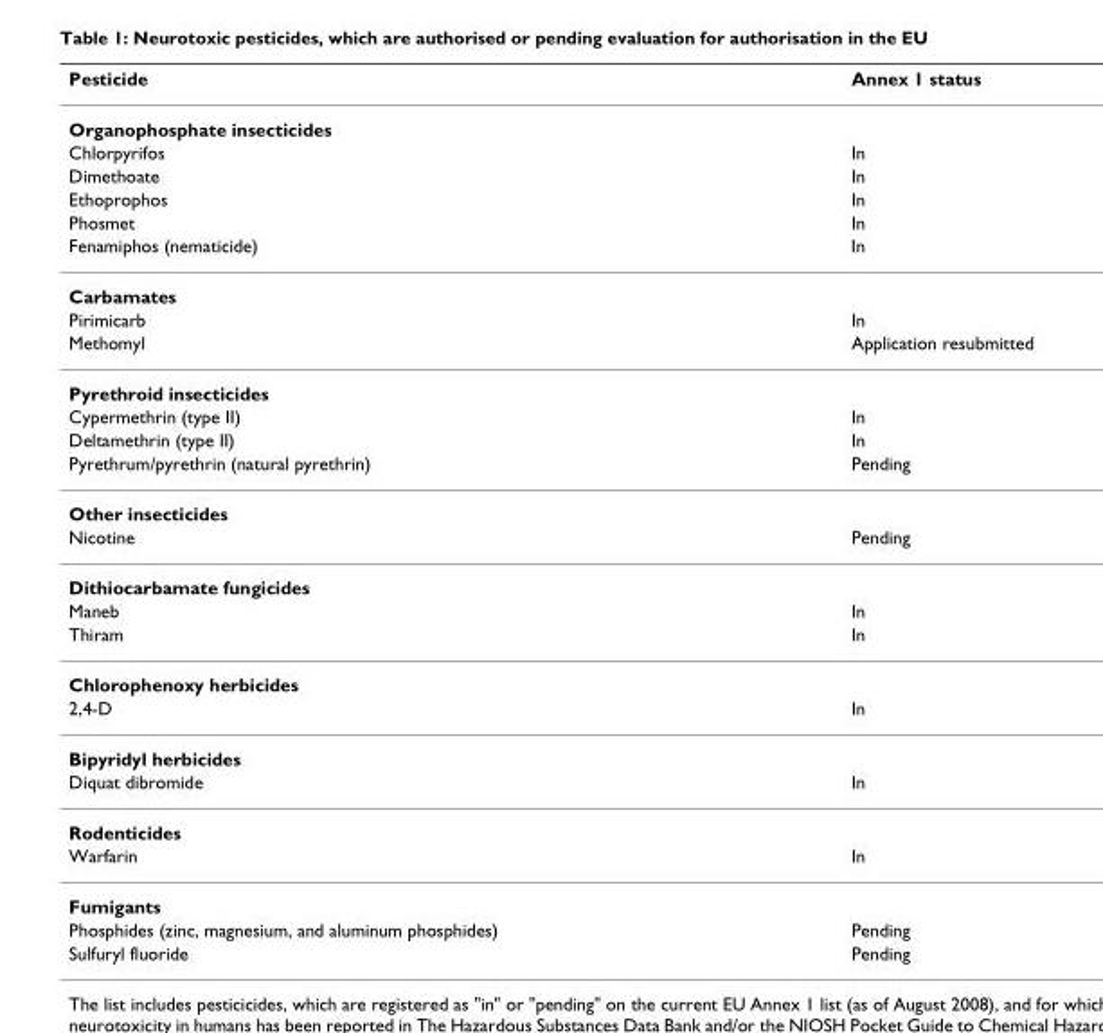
<table><thead><tr><td>Pesticide</td><td>Annex 1 status</td></tr></thead><tbody><tr><td colspan="2">Organophosphate insecticides</td></tr><tr><td>Chlorpyrifos</td><td>In</td></tr><tr><td>Dimethoate</td><td>In</td></tr><tr><td>Ethoprophos</td><td>In</td></tr><tr><td>Phosmet</td><td>In</td></tr><tr><td>Fenamiphos (nematicide)</td><td>In</td></tr><tr><td colspan="2">Carbamates</td></tr><tr><td>Pirimicarb</td><td>In</td></tr><tr><td>Methomyl</td><td>Application resubmitted</td></tr><tr><td colspan="2">Pyrethroid insecticides</td></tr><tr><td>Cypermethrin (type II)</td><td>In</td></tr><tr><td>Deltamethrin (type II)</td><td>In</td></tr><tr><td>Pyrethrum/pyrethrin (natural pyrethrin)</td><td>Pending</td></tr><tr><td colspan="2">Other insecticides</td></tr><tr><td>Nicotine</td><td>Pending</td></tr><tr><td colspan="2">Dithiocarbamate fungicides</td></tr><tr><td>Maneb</td><td>In</td></tr><tr><td>Thiram</td><td>In</td></tr><tr><td colspan="2">Chlorophenoxy herbicides</td></tr><tr><td>2,4-D</td><td>In</td></tr><tr><td colspan="2">Bipyridyl herbicides</td></tr><tr><td>Diquat dibromide</td><td>In</td></tr><tr><td colspan="2">Rodenticides</td></tr><tr><td>Warfarin</td><td>In</td></tr><tr><td colspan="2">Fumigants</td></tr><tr><td>Phosphides (zinc, magnesium, and aluminum phosphides)</td><td>Pending</td></tr><tr><td>Sulfuryl fluoride</td><td>Pending</td></tr></tbody></table>